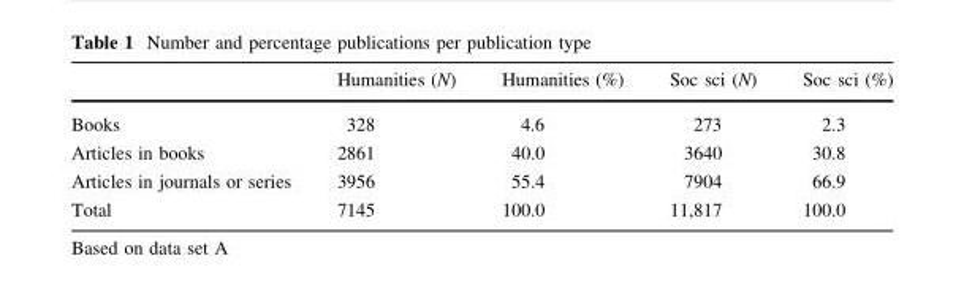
<table><thead><tr><td></td><td>Humanities (N)</td><td>Humanities (%)</td><td>Soc sci (N)</td><td>Soc sci (%)</td></tr></thead><tbody><tr><td>Books</td><td>328</td><td>4.6</td><td>273</td><td>2.3</td></tr><tr><td>Articles in books</td><td>2861</td><td>40.0</td><td>3640</td><td>30.8</td></tr><tr><td>Articles in journals or series</td><td>3956</td><td>55.4</td><td>7904</td><td>66.9</td></tr><tr><td>Total</td><td>7145</td><td>100.0</td><td>11,817</td><td>100.0</td></tr></tbody></table>